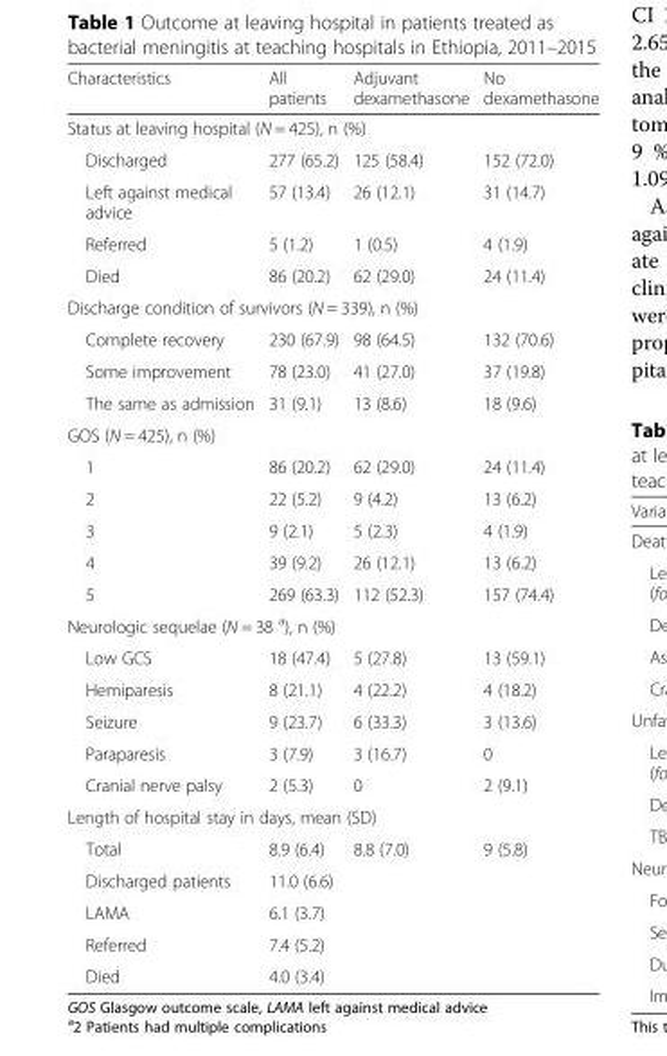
<table><thead><tr><td>Characteristics</td><td>All patients</td><td>Adjuvant dexamethasone</td><td>No dexamethasone</td></tr></thead><tbody><tr><td colspan="4">Status at leaving hospital (N = 425), n (%)</td></tr><tr><td>Discharged</td><td>277 (65.2)</td><td>125 (58.4)</td><td>152 (72.0)</td></tr><tr><td>Left against medical advice</td><td>57 (13.4)</td><td>26 (12.1)</td><td>31 (14.7)</td></tr><tr><td>Referred</td><td>5 (1.2)</td><td>1 (0.5)</td><td>4 (1.9)</td></tr><tr><td>Died</td><td>86 (20.2)</td><td>62 (29.0)</td><td>24 (11.4)</td></tr><tr><td colspan="4">Discharge condition of survivors (N = 339), n (%)</td></tr><tr><td>Complete recovery</td><td>230 (67.9)</td><td>98 (64.5)</td><td>132 (70.6)</td></tr><tr><td>Some improvement</td><td>78 (23.0)</td><td>41 (27.0)</td><td>37 (19.8)</td></tr><tr><td>The same as admission</td><td>31 (9.1)</td><td>13 (8.6)</td><td>18 (9.6)</td></tr><tr><td colspan="4">GOS (N = 425), n (%)</td></tr><tr><td>1</td><td>86 (20.2)</td><td>62 (29.0)</td><td>24 (11.4)</td></tr><tr><td>2</td><td>22 (5.2)</td><td>9 (4.2)</td><td>13 (6.2)</td></tr><tr><td>3</td><td>9 (2.1)</td><td>5 (2.3)</td><td>4 (1.9)</td></tr><tr><td>4</td><td>39 (9.2)</td><td>26 (12.1)</td><td>13 (6.2)</td></tr><tr><td>5</td><td>269 (63.3)</td><td>112 (52.3)</td><td>157 (74.4)</td></tr><tr><td colspan="4">Neurologic sequelae (N = 38 <sup>a</sup>), n (%)</td></tr><tr><td>Low GCS</td><td>18 (47.4)</td><td>5 (27.8)</td><td>13 (59.1)</td></tr><tr><td>Hemiparesis</td><td>8 (21.1)</td><td>4 (22.2)</td><td>4 (18.2)</td></tr><tr><td>Seizure</td><td>9 (23.7)</td><td>6 (33.3)</td><td>3 (13.6)</td></tr><tr><td>Paraparesis</td><td>3 (7.9)</td><td>3 (16.7)</td><td>0</td></tr><tr><td>Cranial nerve palsy</td><td>2 (5.3)</td><td>0</td><td>2 (9.1)</td></tr><tr><td colspan="4">Length of hospital stay in days, mean (SD)</td></tr><tr><td>Total</td><td>8.9 (6.4)</td><td>8.8 (7.0)</td><td>9 (5.8)</td></tr><tr><td>Discharged patients</td><td>11.0 (6.6)</td><td rowspan="4"></td><td rowspan="4"></td></tr><tr><td>LAMA</td><td>6.1 (3.7)</td></tr><tr><td>Referred</td><td>7.4 (5.2)</td></tr><tr><td>Died</td><td>4.0 (3.4)</td></tr></tbody></table>